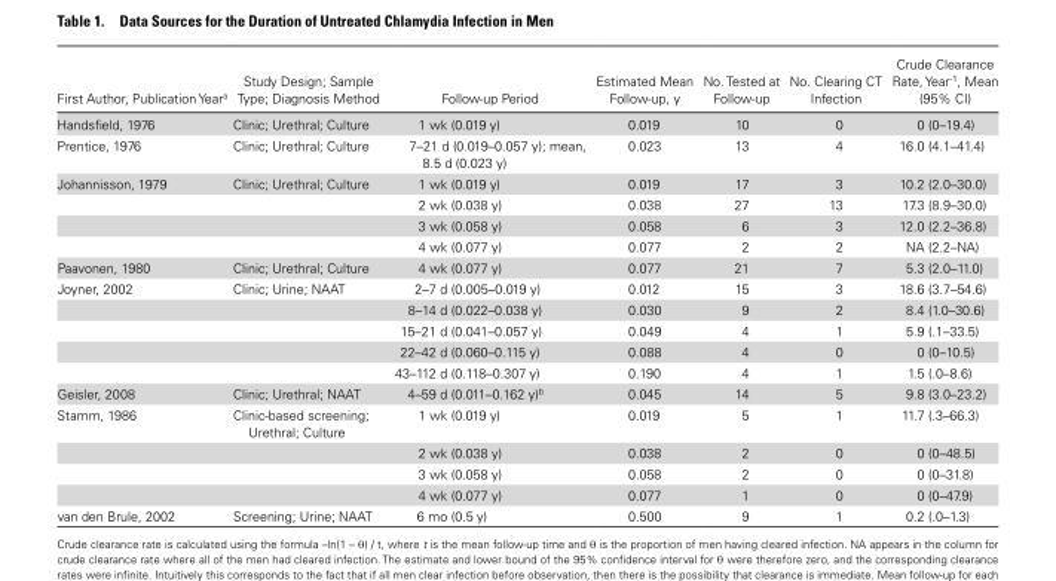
<table><thead><tr><td>First Author, Publication Year<sup>a</sup></td><td>Study Design; Sample Type; Diagnosis Method</td><td>Follow-up Period</td><td>Estimated Mean Follow-up, y</td><td>No. Tested at Follow-up</td><td>No. Clearing CT Infection</td><td>Crude Clearance Rate, Year<sup>-1</sup>, Mean (95% CI)</td></tr></thead><tbody><tr><td>Handsfield, 1976</td><td>Clinic; Urethral; Culture</td><td>1 wk (0.019 y)</td><td>0.019</td><td>10</td><td>0</td><td>0 (0–19.4)</td></tr><tr><td>Prentice, 1976</td><td>Clinic; Urethral; Culture</td><td>7–21 d (0.019–0.057 y); mean, 8.5 d (0.023 y)</td><td>0.023</td><td>13</td><td>4</td><td>16.0 (4.1–41.4)</td></tr><tr><td rowspan="4">Johannisson, 1979</td><td>Clinic; Urethral; Culture</td><td>1 wk (0.019 y)</td><td>0.019</td><td>17</td><td>3</td><td>10.2 (2.0–30.0)</td></tr><tr><td></td><td>2 wk (0.038 y)</td><td>0.038</td><td>27</td><td>13</td><td>17.3 (8.9–30.0)</td></tr><tr><td></td><td>3 wk (0.058 y)</td><td>0.058</td><td>6</td><td>3</td><td>12.0 (2.2–36.8)</td></tr><tr><td></td><td>4 wk (0.077 y)</td><td>0.077</td><td>2</td><td>2</td><td>NA (2.2–NA)</td></tr><tr><td>Paavonen, 1980</td><td>Clinic; Urethral; Culture</td><td>4 wk (0.077 y)</td><td>0.077</td><td>21</td><td>7</td><td>5.3 (2.0–11.0)</td></tr><tr><td rowspan="5">Joyner, 2002</td><td>Clinic; Urine; NAAT</td><td>2–7 d (0.005–0.019 y)</td><td>0.012</td><td>15</td><td>3</td><td>18.6 (3.7–54.6)</td></tr><tr><td></td><td>8–14 d (0.022–0.038 y)</td><td>0.030</td><td>9</td><td>2</td><td>8.4 (1.0–30.6)</td></tr><tr><td></td><td>15–21 d (0.041–0.057 y)</td><td>0.049</td><td>4</td><td>1</td><td>5.9 (.1–33.5)</td></tr><tr><td></td><td>22–42 d (0.060–0.115 y)</td><td>0.088</td><td>4</td><td>0</td><td>0 (0–10.5)</td></tr><tr><td></td><td>43–112 d (0.118–0.307 y)</td><td>0.190</td><td>4</td><td>1</td><td>1.5 (.0–8.6)</td></tr><tr><td>Geisler, 2008</td><td>Clinic; Urethral; NAAT</td><td>4–59 d (0.011–0.162 y)<sup>b</sup></td><td>0.045</td><td>14</td><td>5</td><td>9.8 (3.0–23.2)</td></tr><tr><td rowspan="4">Stamm, 1986</td><td>Clinic-based screening; Urethral; Culture</td><td>1 wk (0.019 y)</td><td>0.019</td><td>5</td><td>1</td><td>11.7 (.3–66.3)</td></tr><tr><td></td><td>2 wk (0.038 y)</td><td>0.038</td><td>2</td><td>0</td><td>0 (0–48.5)</td></tr><tr><td></td><td>3 wk (0.058 y)</td><td>0.058</td><td>2</td><td>0</td><td>0 (0–31.8)</td></tr><tr><td></td><td>4 wk (0.077 y)</td><td>0.077</td><td>1</td><td>0</td><td>0 (0–47.9)</td></tr><tr><td>van den Brule, 2002</td><td>Screening; Urine; NAAT</td><td>6 mo (0.5 y)</td><td>0.500</td><td>9</td><td>1</td><td>0.2 (.0–1.3)</td></tr></tbody></table>